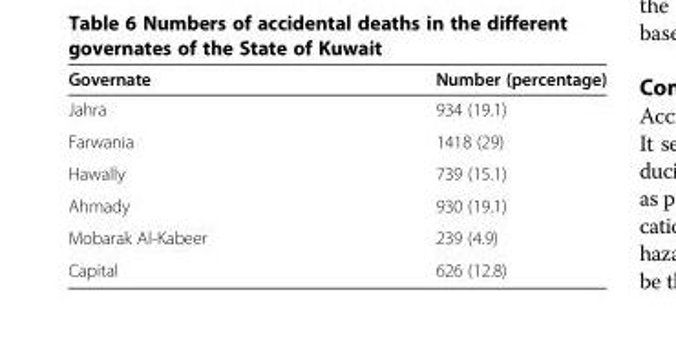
<table><thead><tr><td>Governate</td><td>Number (percentage)</td></tr></thead><tbody><tr><td>Jahra</td><td>934 (19.1)</td></tr><tr><td>Farwania</td><td>1418 (29)</td></tr><tr><td>Hawally</td><td>739 (15.1)</td></tr><tr><td>Ahmady</td><td>930 (19.1)</td></tr><tr><td>Mobarak Al-Kabeer</td><td>239 (4.9)</td></tr><tr><td>Capital</td><td>626 (12.8)</td></tr></tbody></table>